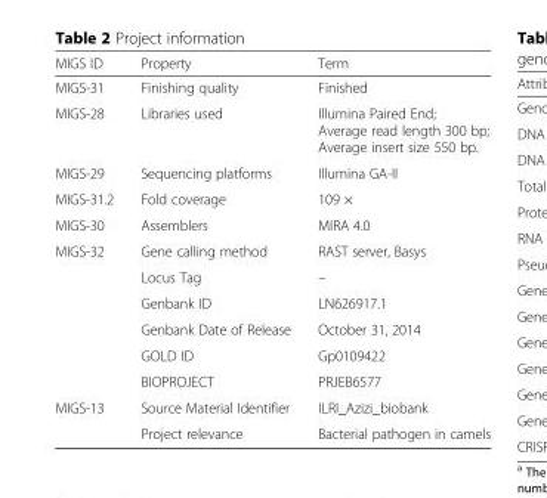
<table><thead><tr><td>MIGS ID</td><td>Property</td><td>Term</td></tr></thead><tbody><tr><td>MIGS-31</td><td>Finishing quality</td><td>Finished</td></tr><tr><td>MIGS-28</td><td>Libraries used</td><td>Illumina Paired End; Average read length 300 bp; Average insert size 550 bp.</td></tr><tr><td>MIGS-29</td><td>Sequencing platforms</td><td>Illumina GA-II</td></tr><tr><td>MIGS-31.2</td><td>Fold coverage</td><td>109 ×</td></tr><tr><td>MIGS-30</td><td>Assemblers</td><td>MIRA 4.0</td></tr><tr><td rowspan="6">MIGS-32</td><td>Gene calling method</td><td>RAST server, Basys</td></tr><tr><td>Locus Tag</td><td>–</td></tr><tr><td>Genbank ID</td><td>LN626917.1</td></tr><tr><td>Genbank Date of Release</td><td>October 31, 2014</td></tr><tr><td>GOLD ID</td><td>Gp0109422</td></tr><tr><td>BIOPROJECT</td><td>PRJEB6577</td></tr><tr><td rowspan="2">MIGS-13</td><td>Source Material Identifier</td><td>ILRI_Azizi_biobank</td></tr><tr><td>Project relevance</td><td>Bacterial pathogen in camels</td></tr></tbody></table>